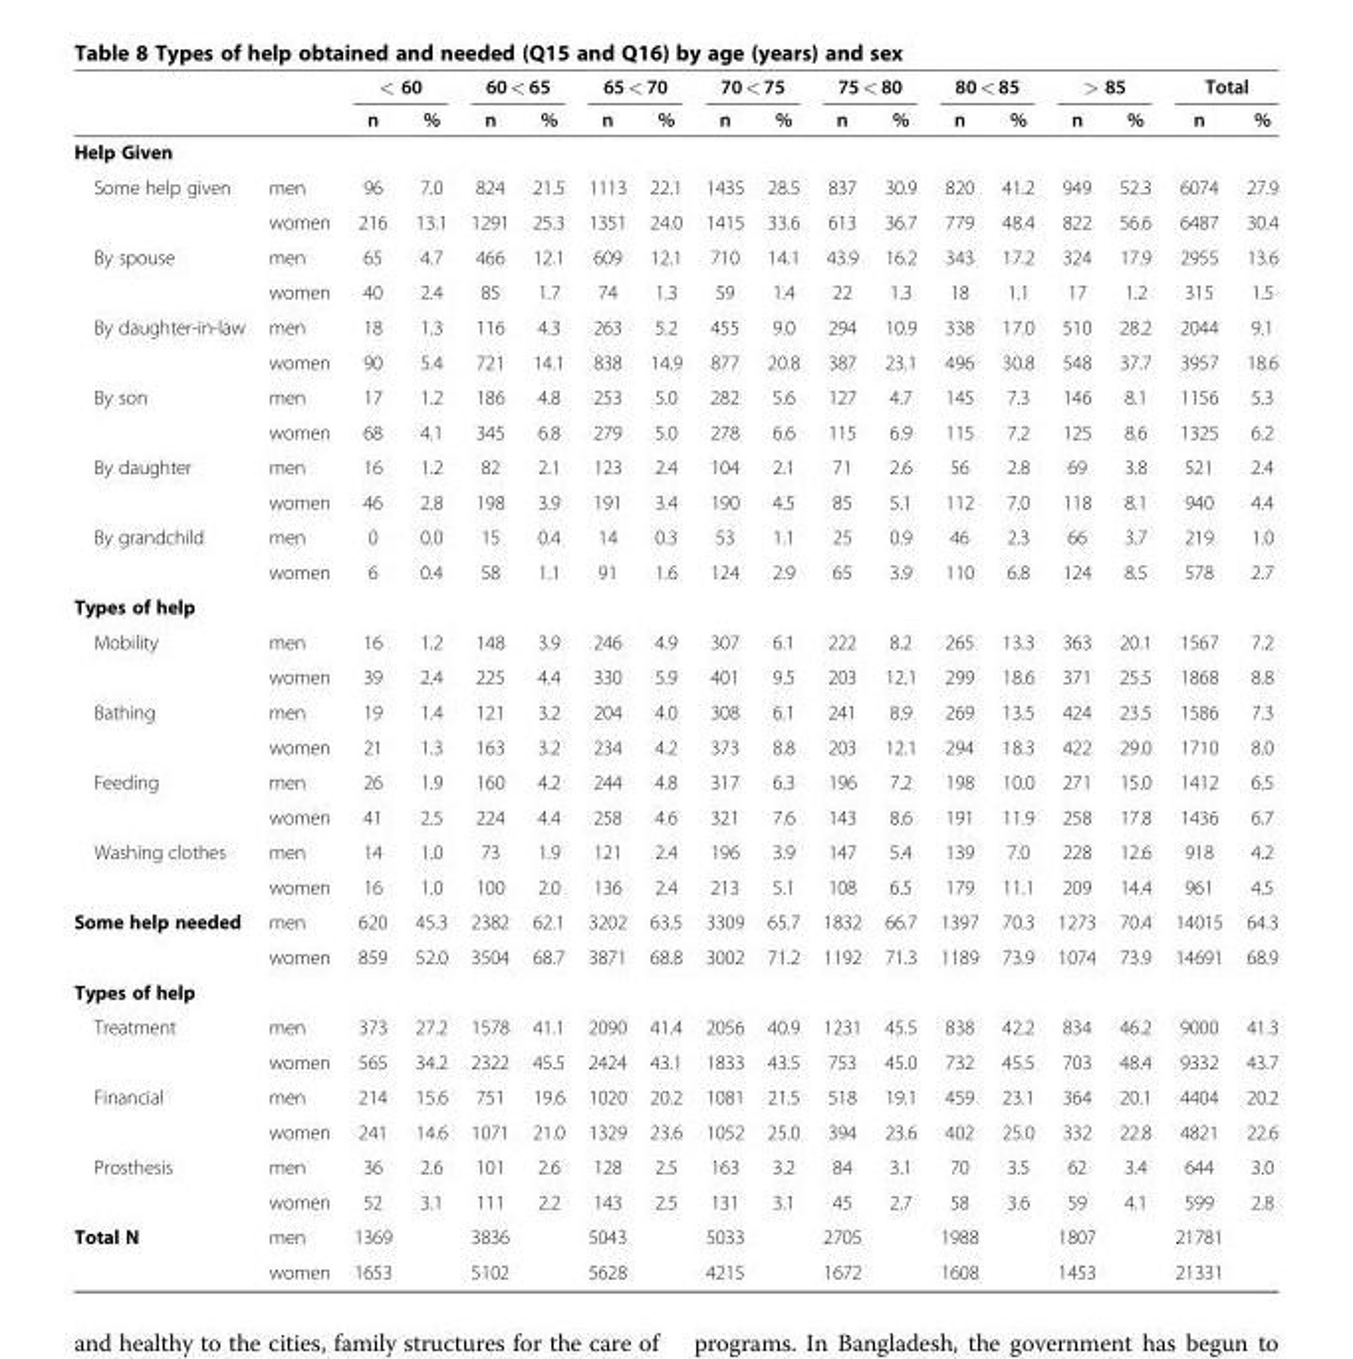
<table><thead><tr><td rowspan="2"></td><td rowspan="2"></td><td colspan="2">&lt; 60</td><td colspan="2">60 &lt; 65</td><td colspan="2">65 &lt; 70</td><td colspan="2">70 &lt; 75</td><td colspan="2">75 &lt; 80</td><td colspan="2">80 &lt; 85</td><td colspan="2">&gt; 85</td><td colspan="2">Total</td></tr><tr><td>n</td><td>%</td><td>n</td><td>%</td><td>n</td><td>%</td><td>n</td><td>%</td><td>n</td><td>%</td><td>n</td><td>%</td><td>n</td><td>%</td><td>n</td><td>%</td></tr></thead><tbody><tr><td colspan="18">Help Given</td></tr><tr><td rowspan="2">Some help given</td><td>men</td><td>96</td><td>7.0</td><td>824</td><td>21.5</td><td>1113</td><td>22.1</td><td>1435</td><td>28.5</td><td>837</td><td>30.9</td><td>820</td><td>41.2</td><td>949</td><td>52.3</td><td>6074</td><td>27.9</td></tr><tr><td>women</td><td>216</td><td>13.1</td><td>1291</td><td>25.3</td><td>1351</td><td>24.0</td><td>1415</td><td>33.6</td><td>613</td><td>36.7</td><td>779</td><td>48.4</td><td>822</td><td>56.6</td><td>6487</td><td>30.4</td></tr><tr><td rowspan="2">By spouse</td><td>men</td><td>65</td><td>4.7</td><td>466</td><td>12.1</td><td>609</td><td>12.1</td><td>710</td><td>14.1</td><td>43.9</td><td>16.2</td><td>343</td><td>17.2</td><td>324</td><td>17.9</td><td>2955</td><td>13.6</td></tr><tr><td>women</td><td>40</td><td>2.4</td><td>85</td><td>1.7</td><td>74</td><td>1.3</td><td>59</td><td>1.4</td><td>22</td><td>1.3</td><td>18</td><td>1.1</td><td>17</td><td>1.2</td><td>315</td><td>1.5</td></tr><tr><td rowspan="2">By daughter-in-law</td><td>men</td><td>18</td><td>1.3</td><td>116</td><td>4.3</td><td>263</td><td>5.2</td><td>455</td><td>9.0</td><td>294</td><td>10.9</td><td>338</td><td>17.0</td><td>510</td><td>28.2</td><td>2044</td><td>9.1</td></tr><tr><td>women</td><td>90</td><td>5.4</td><td>721</td><td>14.1</td><td>838</td><td>14.9</td><td>877</td><td>20.8</td><td>387</td><td>23.1</td><td>496</td><td>30.8</td><td>548</td><td>37.7</td><td>3957</td><td>18.6</td></tr><tr><td rowspan="2">By son</td><td>men</td><td>17</td><td>1.2</td><td>186</td><td>4.8</td><td>253</td><td>5.0</td><td>282</td><td>5.6</td><td>127</td><td>4.7</td><td>145</td><td>7.3</td><td>146</td><td>8.1</td><td>1156</td><td>5.3</td></tr><tr><td>women</td><td>68</td><td>4.1</td><td>345</td><td>6.8</td><td>279</td><td>5.0</td><td>278</td><td>6.6</td><td>115</td><td>6.9</td><td>115</td><td>7.2</td><td>125</td><td>8.6</td><td>1325</td><td>6.2</td></tr><tr><td rowspan="2">By daughter</td><td>men</td><td>16</td><td>1.2</td><td>82</td><td>2.1</td><td>123</td><td>2.4</td><td>104</td><td>2.1</td><td>71</td><td>2.6</td><td>56</td><td>2.8</td><td>69</td><td>3.8</td><td>521</td><td>2.4</td></tr><tr><td>women</td><td>46</td><td>2.8</td><td>198</td><td>3.9</td><td>191</td><td>3.4</td><td>190</td><td>4.5</td><td>85</td><td>5.1</td><td>112</td><td>7.0</td><td>118</td><td>8.1</td><td>940</td><td>4.4</td></tr><tr><td rowspan="2">By grandchild</td><td>men</td><td>0</td><td>0.0</td><td>15</td><td>0.4</td><td>14</td><td>0.3</td><td>53</td><td>1.1</td><td>25</td><td>0.9</td><td>46</td><td>2.3</td><td>66</td><td>3.7</td><td>219</td><td>1.0</td></tr><tr><td>women</td><td>6</td><td>0.4</td><td>58</td><td>1.1</td><td>91</td><td>1.6</td><td>124</td><td>2.9</td><td>65</td><td>3.9</td><td>110</td><td>6.8</td><td>124</td><td>8.5</td><td>578</td><td>2.7</td></tr><tr><td colspan="18">Types of help</td></tr><tr><td rowspan="2">Mobility</td><td>men</td><td>16</td><td>1.2</td><td>148</td><td>3.9</td><td>246</td><td>4.9</td><td>307</td><td>6.1</td><td>222</td><td>8.2</td><td>265</td><td>13.3</td><td>363</td><td>20.1</td><td>1567</td><td>7.2</td></tr><tr><td>women</td><td>39</td><td>2.4</td><td>225</td><td>4.4</td><td>330</td><td>5.9</td><td>401</td><td>9.5</td><td>203</td><td>12.1</td><td>299</td><td>18.6</td><td>371</td><td>25.5</td><td>1868</td><td>8.8</td></tr><tr><td rowspan="2">Bathing</td><td>men</td><td>19</td><td>1.4</td><td>121</td><td>3.2</td><td>204</td><td>4.0</td><td>308</td><td>6.1</td><td>241</td><td>8.9</td><td>269</td><td>13.5</td><td>424</td><td>23.5</td><td>1586</td><td>7.3</td></tr><tr><td>women</td><td>21</td><td>1.3</td><td>163</td><td>3.2</td><td>234</td><td>4.2</td><td>373</td><td>8.8</td><td>203</td><td>12.1</td><td>294</td><td>18.3</td><td>422</td><td>29.0</td><td>1710</td><td>8.0</td></tr><tr><td rowspan="2">Feeding</td><td>men</td><td>26</td><td>1.9</td><td>160</td><td>4.2</td><td>244</td><td>4.8</td><td>317</td><td>6.3</td><td>196</td><td>7.2</td><td>198</td><td>10.0</td><td>271</td><td>15.0</td><td>1412</td><td>6.5</td></tr><tr><td>women</td><td>41</td><td>2.5</td><td>224</td><td>4.4</td><td>258</td><td>4.6</td><td>321</td><td>7.6</td><td>143</td><td>8.6</td><td>191</td><td>11.9</td><td>258</td><td>17.8</td><td>1436</td><td>6.7</td></tr><tr><td rowspan="2">Washing clothes</td><td>men</td><td>14</td><td>1.0</td><td>73</td><td>1.9</td><td>121</td><td>2.4</td><td>196</td><td>3.9</td><td>147</td><td>5.4</td><td>139</td><td>7.0</td><td>228</td><td>12.6</td><td>918</td><td>4.2</td></tr><tr><td>women</td><td>16</td><td>1.0</td><td>100</td><td>2.0</td><td>136</td><td>2.4</td><td>213</td><td>5.1</td><td>108</td><td>6.5</td><td>179</td><td>11.1</td><td>209</td><td>14.4</td><td>961</td><td>4.5</td></tr><tr><td rowspan="2">Some help needed</td><td>men</td><td>620</td><td>45.3</td><td>2382</td><td>62.1</td><td>3202</td><td>63.5</td><td>3309</td><td>65.7</td><td>1832</td><td>66.7</td><td>1397</td><td>70.3</td><td>1273</td><td>70.4</td><td>14015</td><td>64.3</td></tr><tr><td>women</td><td>859</td><td>52.0</td><td>3504</td><td>68.7</td><td>3871</td><td>68.8</td><td>3002</td><td>71.2</td><td>1192</td><td>71.3</td><td>1189</td><td>73.9</td><td>1074</td><td>73.9</td><td>14691</td><td>68.9</td></tr><tr><td colspan="18">Types of help</td></tr><tr><td rowspan="2">Treatment</td><td>men</td><td>373</td><td>27.2</td><td>1578</td><td>41.1</td><td>2090</td><td>41.4</td><td>2056</td><td>40.9</td><td>1231</td><td>45.5</td><td>838</td><td>42.2</td><td>834</td><td>46.2</td><td>9000</td><td>41.3</td></tr><tr><td>women</td><td>565</td><td>34.2</td><td>2322</td><td>45.5</td><td>2424</td><td>43.1</td><td>1833</td><td>43.5</td><td>753</td><td>45.0</td><td>732</td><td>45.5</td><td>703</td><td>48.4</td><td>9332</td><td>43.7</td></tr><tr><td rowspan="2">Financial</td><td>men</td><td>214</td><td>15.6</td><td>751</td><td>19.6</td><td>1020</td><td>20.2</td><td>1081</td><td>21.5</td><td>518</td><td>19.1</td><td>459</td><td>23.1</td><td>364</td><td>20.1</td><td>4404</td><td>20.2</td></tr><tr><td>women</td><td>241</td><td>14.6</td><td>1071</td><td>21.0</td><td>1329</td><td>23.6</td><td>1052</td><td>25.0</td><td>394</td><td>23.6</td><td>402</td><td>25.0</td><td>332</td><td>22.8</td><td>4821</td><td>22.6</td></tr><tr><td rowspan="2">Prosthesis</td><td>men</td><td>36</td><td>2.6</td><td>101</td><td>2.6</td><td>128</td><td>2.5</td><td>163</td><td>3.2</td><td>84</td><td>3.1</td><td>70</td><td>3.5</td><td>62</td><td>3.4</td><td>644</td><td>3.0</td></tr><tr><td>women</td><td>52</td><td>3.1</td><td>111</td><td>2.2</td><td>143</td><td>2.5</td><td>131</td><td>3.1</td><td>45</td><td>2.7</td><td>58</td><td>3.6</td><td>59</td><td>4.1</td><td>599</td><td>2.8</td></tr><tr><td rowspan="2">Total N</td><td>men</td><td>1369</td><td></td><td>3836</td><td></td><td>5043</td><td></td><td>5033</td><td></td><td>2705</td><td></td><td>1988</td><td></td><td>1807</td><td></td><td>21781</td><td></td></tr><tr><td>women</td><td>1653</td><td></td><td>5102</td><td></td><td>5628</td><td></td><td>4215</td><td></td><td>1672</td><td></td><td>1608</td><td></td><td>1453</td><td></td><td>21331</td><td></td></tr></tbody></table>